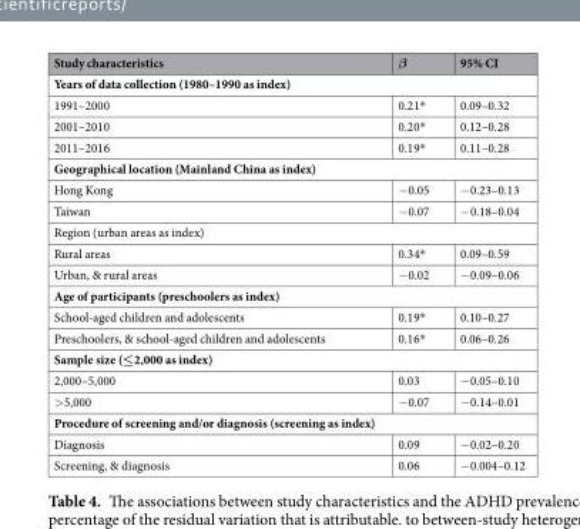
<table><thead><tr><td>Study characteristics</td><td>β</td><td>95% CI</td></tr></thead><tbody><tr><td colspan="3">Years of data collection (1980–1990 as index)</td></tr><tr><td>1991–2000</td><td>0.21*</td><td>0.09–0.32</td></tr><tr><td>2001–2010</td><td>0.20*</td><td>0.12–0.28</td></tr><tr><td>2011–2016</td><td>0.19*</td><td>0.11–0.28</td></tr><tr><td colspan="3">Geographical location (Mainland China as index)</td></tr><tr><td>Hong Kong</td><td>−0.05</td><td>−0.23–0.13</td></tr><tr><td>Taiwan</td><td>−0.07</td><td>−0.18–0.04</td></tr><tr><td colspan="3">Region (urban areas as index)</td></tr><tr><td>Rural areas</td><td>0.34*</td><td>0.09–0.59</td></tr><tr><td>Urban, &amp; rural areas</td><td>−0.02</td><td>−0.09–0.06</td></tr><tr><td colspan="3">Age of participants (preschoolers as index)</td></tr><tr><td>School-aged children and adolescents</td><td>0.19*</td><td>0.10–0.27</td></tr><tr><td>Preschoolers, &amp; school-aged children and adolescents</td><td>0.16*</td><td>0.06–0.26</td></tr><tr><td colspan="3">Sample size (≤2,000 as index)</td></tr><tr><td>2,000–5,000</td><td>0.03</td><td>−0.05–0.10</td></tr><tr><td>&gt;5,000</td><td>−0.07</td><td>−0.14–0.01</td></tr><tr><td colspan="3">Procedure of screening and/or diagnosis (screening as index)</td></tr><tr><td>Diagnosis</td><td>0.09</td><td>−0.02–0.20</td></tr><tr><td>Screening, &amp; diagnosis</td><td>0.06</td><td>−0.004–0.12</td></tr></tbody></table>